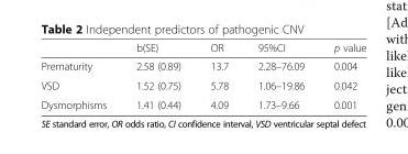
<table><thead><tr><td></td><td>b(SE)</td><td>OR</td><td>95%CI</td><td>p value</td></tr></thead><tbody><tr><td>Prematurity</td><td>2.58 (0.89)</td><td>13.7</td><td>2.28–76.09</td><td>0.004</td></tr><tr><td>VSD</td><td>1.52 (0.75)</td><td>5.78</td><td>1.06–19.86</td><td>0.042</td></tr><tr><td>Dysmorphisms</td><td>1.41 (0.44)</td><td>4.09</td><td>1.73–9.66</td><td>0.001</td></tr></tbody></table>